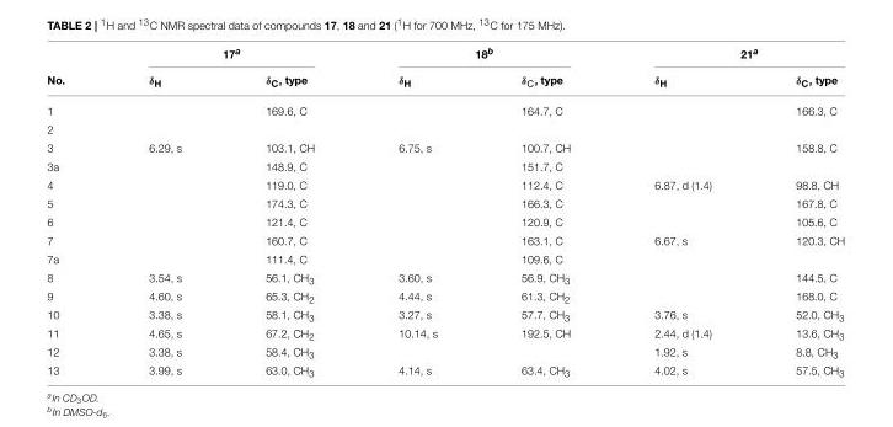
<table><thead><tr><td rowspan="2">No.</td><td colspan="2">17<sup>a</sup></td><td colspan="2">18<sup>b</sup></td><td colspan="2">21<sup>a</sup></td></tr><tr><td>δ<sub>H</sub></td><td>δ<sub>C</sub>, type</td><td>δ<sub>H</sub></td><td>δ<sub>C</sub>, type</td><td>δ<sub>H</sub></td><td>δ<sub>C</sub>, type</td></tr></thead><tbody><tr><td>1</td><td></td><td>169.6, C</td><td></td><td>164.7, C</td><td></td><td>166.3, C</td></tr><tr><td colspan="7">2</td></tr><tr><td>3</td><td>6.29, s</td><td>103.1, CH</td><td>6.75, s</td><td>100.7, CH</td><td></td><td>158.8, C</td></tr><tr><td>3a</td><td></td><td>148.9, C</td><td></td><td>151.7, C</td><td></td><td></td></tr><tr><td>4</td><td></td><td>119.0, C</td><td></td><td>112.4, C</td><td>6.87, d (1.4)</td><td>98.8, CH</td></tr><tr><td>5</td><td></td><td>174.3, C</td><td></td><td>166.3, C</td><td></td><td>167.8, C</td></tr><tr><td>6</td><td></td><td>121.4, C</td><td></td><td>120.9, C</td><td></td><td>105.6, C</td></tr><tr><td>7</td><td></td><td>160.7, C</td><td></td><td>163.1, C</td><td>6.67, s</td><td>120.3, CH</td></tr><tr><td>7a</td><td></td><td>111.4, C</td><td></td><td>109.6, C</td><td></td><td></td></tr><tr><td>8</td><td>3.54, s</td><td>56.1, CH<sub>3</sub></td><td>3.60, s</td><td>56.9, CH<sub>3</sub></td><td></td><td>144.5, C</td></tr><tr><td>9</td><td>4.60, s</td><td>65.3, CH<sub>2</sub></td><td>4.44, s</td><td>61.3, CH<sub>2</sub></td><td></td><td>168.0, C</td></tr><tr><td>10</td><td>3.38, s</td><td>58.1, CH<sub>3</sub></td><td>3.27, s</td><td>57.7, CH<sub>3</sub></td><td>3.76, s</td><td>52.0, CH<sub>3</sub></td></tr><tr><td>11</td><td>4.65, s</td><td>67.2, CH<sub>2</sub></td><td>10.14, s</td><td>192.5, CH</td><td>2.44, d (1.4)</td><td>13.6, CH<sub>3</sub></td></tr><tr><td>12</td><td>3.38, s</td><td>58.4, CH<sub>3</sub></td><td></td><td></td><td>1.92, s</td><td>8.8, CH<sub>3</sub></td></tr><tr><td>13</td><td>3.99, s</td><td>63.0, CH<sub>3</sub></td><td>4.14, s</td><td>63.4, CH<sub>3</sub></td><td>4.02, s</td><td>57.5, CH<sub>3</sub></td></tr></tbody></table>